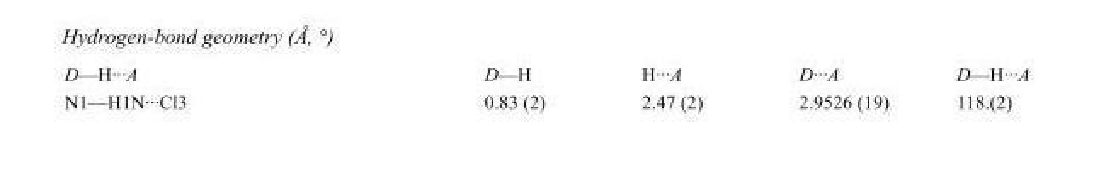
<table><tbody><tr><td>D—H···A</td><td>D—H</td><td>H···A</td><td>D···A</td><td>D—H···A</td></tr><tr><td>N1—H1N···Cl3</td><td>0.83 (2)</td><td>2.47 (2)</td><td>2.9526 (19)</td><td>118.(2)</td></tr></tbody></table>